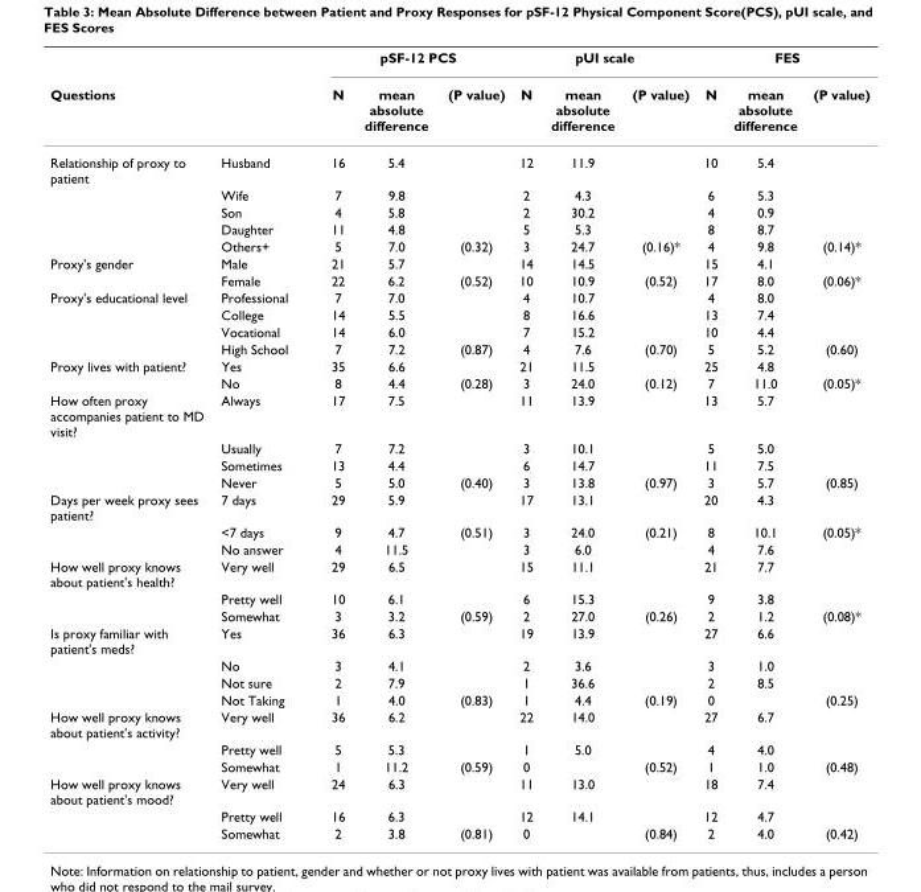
<table><thead><tr><td rowspan="2">Questions</td><td rowspan="2"></td><td colspan="3">pSF-12 PCS</td><td colspan="3">pUI scale</td><td colspan="3">FES</td></tr><tr><td>N</td><td>mean absolute difference</td><td>(P value)</td><td>N</td><td>mean absolute difference</td><td>(P value)</td><td>N</td><td>mean absolute difference</td><td>(P value)</td></tr></thead><tbody><tr><td rowspan="5">Relationship of proxy to patient</td><td>Husband</td><td>16</td><td>5.4</td><td></td><td>12</td><td>11.9</td><td></td><td>10</td><td>5.4</td><td></td></tr><tr><td>Wife</td><td>7</td><td>9.8</td><td></td><td>2</td><td>4.3</td><td></td><td>6</td><td>5.3</td><td></td></tr><tr><td>Son</td><td>4</td><td>5.8</td><td></td><td>2</td><td>30.2</td><td></td><td>4</td><td>0.9</td><td></td></tr><tr><td>Daughter</td><td>11</td><td>4.8</td><td></td><td>5</td><td>5.3</td><td></td><td>8</td><td>8.7</td><td></td></tr><tr><td>Others+</td><td>5</td><td>7.0</td><td>(0.32)</td><td>3</td><td>24.7</td><td>(0.16)*</td><td>4</td><td>9.8</td><td>(0.14)*</td></tr><tr><td rowspan="2">Proxy&#x27;s gender</td><td>Male</td><td>21</td><td>5.7</td><td></td><td>14</td><td>14.5</td><td></td><td>15</td><td>4.1</td><td></td></tr><tr><td>Female</td><td>22</td><td>6.2</td><td>(0.52)</td><td>10</td><td>10.9</td><td>(0.52)</td><td>17</td><td>8.0</td><td>(0.06)*</td></tr><tr><td rowspan="4">Proxy&#x27;s educational level</td><td>Professional</td><td>7</td><td>7.0</td><td></td><td>4</td><td>10.7</td><td></td><td>4</td><td>8.0</td><td></td></tr><tr><td>College</td><td>14</td><td>5.5</td><td></td><td>8</td><td>16.6</td><td></td><td>13</td><td>7.4</td><td></td></tr><tr><td>Vocational</td><td>14</td><td>6.0</td><td></td><td>7</td><td>15.2</td><td></td><td>10</td><td>4.4</td><td></td></tr><tr><td>High School</td><td>7</td><td>7.2</td><td>(0.87)</td><td>4</td><td>7.6</td><td>(0.70)</td><td>5</td><td>5.2</td><td>(0.60)</td></tr><tr><td rowspan="2">Proxy lives with patient?</td><td>Yes</td><td>35</td><td>6.6</td><td></td><td>21</td><td>11.5</td><td></td><td>25</td><td>4.8</td><td></td></tr><tr><td>No</td><td>8</td><td>4.4</td><td>(0.28)</td><td>3</td><td>24.0</td><td>(0.12)</td><td>7</td><td>11.0</td><td>(0.05)*</td></tr><tr><td rowspan="4">How often proxy accompanies patient to MD visit?</td><td>Always</td><td>17</td><td>7.5</td><td></td><td>11</td><td>13.9</td><td></td><td>13</td><td>5.7</td><td></td></tr><tr><td>Usually</td><td>7</td><td>7.2</td><td></td><td>3</td><td>10.1</td><td></td><td>5</td><td>5.0</td><td></td></tr><tr><td>Sometimes</td><td>13</td><td>4.4</td><td></td><td>6</td><td>14.7</td><td></td><td>11</td><td>7.5</td><td></td></tr><tr><td>Never</td><td>5</td><td>5.0</td><td>(0.40)</td><td>3</td><td>13.8</td><td>(0.97)</td><td>3</td><td>5.7</td><td>(0.85)</td></tr><tr><td rowspan="3">Days per week proxy sees patient?</td><td>7 days</td><td>29</td><td>5.9</td><td></td><td>17</td><td>13.1</td><td></td><td>20</td><td>4.3</td><td></td></tr><tr><td>&lt;7 days</td><td>9</td><td>4.7</td><td>(0.51)</td><td>3</td><td>24.0</td><td>(0.21)</td><td>8</td><td>10.1</td><td>(0.05)*</td></tr><tr><td>No answer</td><td>4</td><td>11.5</td><td></td><td>3</td><td>6.0</td><td></td><td>4</td><td>7.6</td><td></td></tr><tr><td rowspan="3">How well proxy knows about patient&#x27;s health?</td><td>Very well</td><td>29</td><td>6.5</td><td></td><td>15</td><td>11.1</td><td></td><td>21</td><td>7.7</td><td></td></tr><tr><td>Pretty well</td><td>10</td><td>6.1</td><td></td><td>6</td><td>15.3</td><td></td><td>9</td><td>3.8</td><td></td></tr><tr><td>Somewhat</td><td>3</td><td>3.2</td><td>(0.59)</td><td>2</td><td>27.0</td><td>(0.26)</td><td>2</td><td>1.2</td><td>(0.08)*</td></tr><tr><td rowspan="4">Is proxy familiar with patient&#x27;s meds?</td><td>Yes</td><td>36</td><td>6.3</td><td></td><td>19</td><td>13.9</td><td></td><td>27</td><td>6.6</td><td></td></tr><tr><td>No</td><td>3</td><td>4.1</td><td></td><td>2</td><td>3.6</td><td></td><td>3</td><td>1.0</td><td></td></tr><tr><td>Not sure</td><td>2</td><td>7.9</td><td></td><td>1</td><td>36.6</td><td></td><td>2</td><td>8.5</td><td></td></tr><tr><td>Not Taking</td><td>1</td><td>4.0</td><td>(0.83)</td><td>1</td><td>4.4</td><td>(0.19)</td><td>0</td><td></td><td>(0.25)</td></tr><tr><td rowspan="3">How well proxy knows about patient&#x27;s activity?</td><td>Very well</td><td>36</td><td>6.2</td><td></td><td>22</td><td>14.0</td><td></td><td>27</td><td>6.7</td><td></td></tr><tr><td>Pretty well</td><td>5</td><td>5.3</td><td></td><td>1</td><td>5.0</td><td></td><td>4</td><td>4.0</td><td></td></tr><tr><td>Somewhat</td><td>1</td><td>11.2</td><td>(0.59)</td><td>0</td><td></td><td>(0.52)</td><td>1</td><td>1.0</td><td>(0.48)</td></tr><tr><td rowspan="3">How well proxy knows about patient&#x27;s mood?</td><td>Very well</td><td>24</td><td>6.3</td><td></td><td>11</td><td>13.0</td><td></td><td>18</td><td>7.4</td><td></td></tr><tr><td>Pretty well</td><td>16</td><td>6.3</td><td></td><td>12</td><td>14.1</td><td></td><td>12</td><td>4.7</td><td></td></tr><tr><td>Somewhat</td><td>2</td><td>3.8</td><td>(0.81)</td><td>0</td><td></td><td>(0.84)</td><td>2</td><td>4.0</td><td>(0.42)</td></tr></tbody></table>